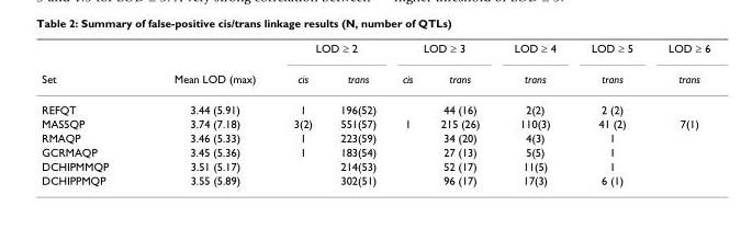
<table><thead><tr><td rowspan="2">Set</td><td rowspan="2">Mean LOD (max)</td><td colspan="2">LOD ≥ 2</td><td colspan="2">LOD ≥ 3</td><td rowspan="2">LOD ≥ 4 trans</td><td rowspan="2">LOD ≥ 5 trans</td><td rowspan="2">LOD ≥ 6 trans</td></tr><tr><td>cis</td><td>trans</td><td>cis</td><td>trans</td></tr></thead><tbody><tr><td>REFQT</td><td>3.44 (5.91)</td><td>1</td><td>196(52)</td><td></td><td>44 (16)</td><td>2(2)</td><td>2 (2)</td><td></td></tr><tr><td>MAS5QP</td><td>3.74 (7.18)</td><td>3(2)</td><td>551(57)</td><td>1</td><td>215 (26)</td><td>110(3)</td><td>41 (2)</td><td>7(1)</td></tr><tr><td>RMAQP</td><td>3.46 (5.33)</td><td>1</td><td>223(59)</td><td></td><td>34 (20)</td><td>4(3)</td><td>1</td><td></td></tr><tr><td>GCRMAQP</td><td>3.45 (5.36)</td><td>1</td><td>183(54)</td><td></td><td>27 (13)</td><td>5(5)</td><td>1</td><td></td></tr><tr><td>DCHIPMMQP</td><td>3.51 (5.17)</td><td></td><td>214(53)</td><td></td><td>52 (17)</td><td>11(5)</td><td>1</td><td></td></tr><tr><td>DCHIPPMQP</td><td>3.55 (5.89)</td><td></td><td>302(51)</td><td></td><td>96 (17)</td><td>17(3)</td><td>6 (1)</td><td></td></tr></tbody></table>